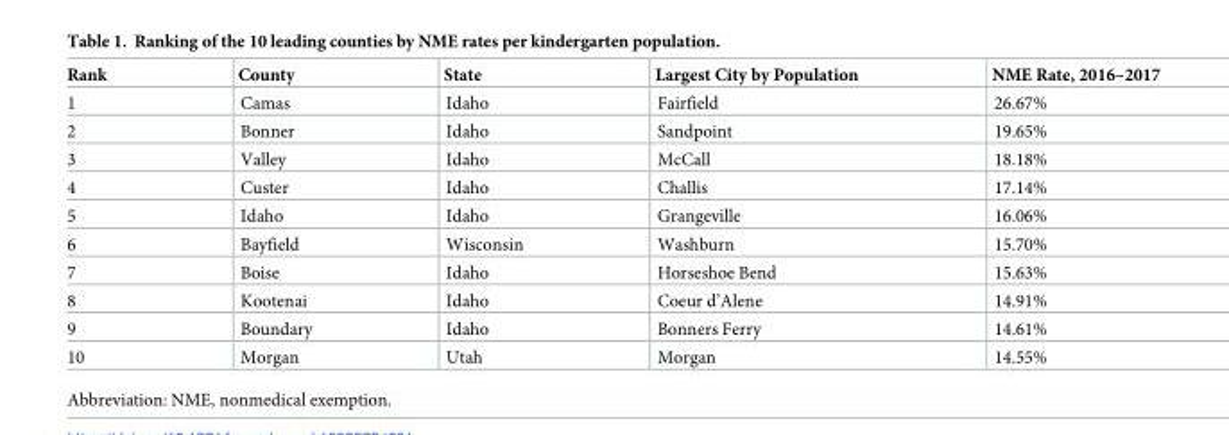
<table><thead><tr><td>Rank</td><td>County</td><td>State</td><td>Largest City by Population</td><td>NME Rate, 2016–2017</td></tr></thead><tbody><tr><td>1</td><td>Camas</td><td>Idaho</td><td>Fairfield</td><td>26.67%</td></tr><tr><td>2</td><td>Bonner</td><td>Idaho</td><td>Sandpoint</td><td>19.65%</td></tr><tr><td>3</td><td>Valley</td><td>Idaho</td><td>McCall</td><td>18.18%</td></tr><tr><td>4</td><td>Custer</td><td>Idaho</td><td>Challis</td><td>17.14%</td></tr><tr><td>5</td><td>Idaho</td><td>Idaho</td><td>Grangeville</td><td>16.06%</td></tr><tr><td>6</td><td>Bayfield</td><td>Wisconsin</td><td>Washburn</td><td>15.70%</td></tr><tr><td>7</td><td>Boise</td><td>Idaho</td><td>Horseshoe Bend</td><td>15.63%</td></tr><tr><td>8</td><td>Kootenai</td><td>Idaho</td><td>Coeur d’Alene</td><td>14.91%</td></tr><tr><td>9</td><td>Boundary</td><td>Idaho</td><td>Bonners Ferry</td><td>14.61%</td></tr><tr><td>10</td><td>Morgan</td><td>Utah</td><td>Morgan</td><td>14.55%</td></tr></tbody></table>